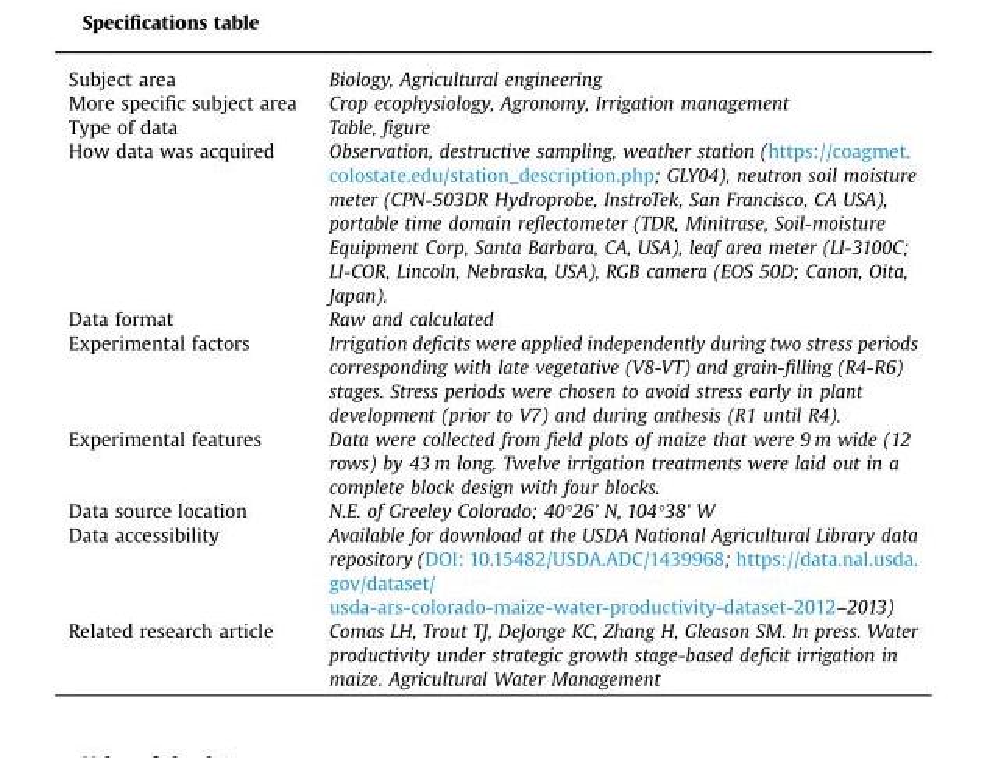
<table><thead><tr><td>Subject area</td><td>Biology, Agricultural engineering</td></tr></thead><tbody><tr><td>More specific subject area</td><td>Crop ecophysiology, Agronomy, Irrigation management</td></tr><tr><td>Type of data</td><td>Table, figure</td></tr><tr><td>How data was acquired</td><td>Observation, destructive sampling, weather station (https://coagmet. colostate.edu/station_description.php; GLY04), neutron soil moisture meter (CPN-503DR Hydroprobe, InstroTek, San Francisco, CA USA), portable time domain reflectometer (TDR, Minitrase, Soil-moisture Equipment Corp, Santa Barbara, CA, USA), leaf area meter (LI-3100C; LI-COR, Lincoln, Nebraska, USA), RGB camera (EOS 50D; Canon, Oita, Japan).</td></tr><tr><td>Data format</td><td>Raw and calculated</td></tr><tr><td>Experimental factors</td><td>Irrigation deficits were applied independently during two stress periods corresponding with late vegetative (V8-VT) and grain-filling (R4-R6) stages. Stress periods were chosen to avoid stress early in plant development (prior to V7) and during anthesis (R1 until R4).</td></tr><tr><td>Experimental features</td><td>Data were collected from field plots of maize that were 9 m wide (12 rows) by 43 m long. Twelve irrigation treatments were laid out in a complete block design with four blocks.</td></tr><tr><td>Data source location</td><td>N.E. of Greeley Colorado; 40°26’ N, 104°38’ W</td></tr><tr><td>Data accessibility</td><td>Available for download at the USDA National Agricultural Library data repository (DOI: 10.15482/USDA.ADC/1439968; https://data.nal.usda. gov/dataset/ usda-ars-colorado-maize-water-productivity-dataset-2012–2013)</td></tr><tr><td>Related research article</td><td>Comas LH, Trout TJ, DeJonge KC, Zhang H, Gleason SM. In press. Water productivity under strategic growth stage-based deficit irrigation in maize. Agricultural Water Management</td></tr></tbody></table>